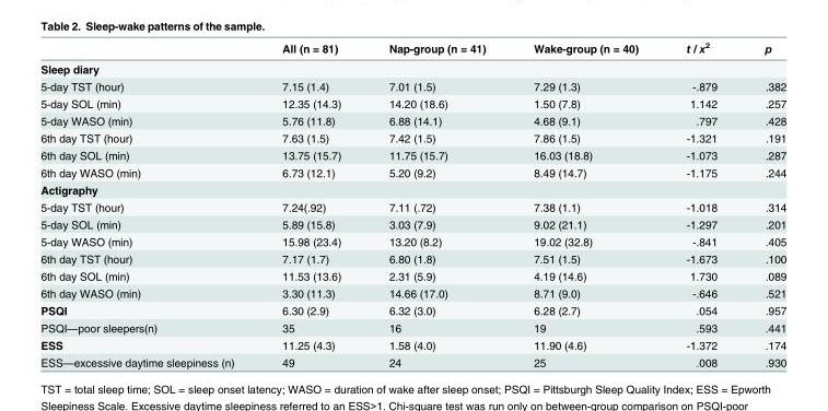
<table><thead><tr><td></td><td>All (n = 81)</td><td>Nap-group (n = 41)</td><td>Wake-group (n = 40)</td><td>t / x<sup>2</sup></td><td>p</td></tr></thead><tbody><tr><td colspan="6">Sleep diary</td></tr><tr><td>5-day TST (hour)</td><td>7.15 (1.4)</td><td>7.01 (1.5)</td><td>7.29 (1.3)</td><td>-.879</td><td>.382</td></tr><tr><td>5-day SOL (min)</td><td>12.35 (14.3)</td><td>14.20 (18.6)</td><td>1.50 (7.8)</td><td>1.142</td><td>.257</td></tr><tr><td>5-day WASO (min)</td><td>5.76 (11.8)</td><td>6.88 (14.1)</td><td>4.68 (9.1)</td><td>.797</td><td>.428</td></tr><tr><td>6th day TST (hour)</td><td>7.63 (1.5)</td><td>7.42 (1.5)</td><td>7.86 (1.5)</td><td>-1.321</td><td>.191</td></tr><tr><td>6th day SOL (min)</td><td>13.75 (15.7)</td><td>11.75 (15.7)</td><td>16.03 (18.8)</td><td>-1.073</td><td>.287</td></tr><tr><td>6th day WASO (min)</td><td>6.73 (12.1)</td><td>5.20 (9.2)</td><td>8.49 (14.7)</td><td>-1.175</td><td>.244</td></tr><tr><td colspan="6">Actigraphy</td></tr><tr><td>5-day TST (hour)</td><td>7.24(.92)</td><td>7.11 (.72)</td><td>7.38 (1.1)</td><td>-1.018</td><td>.314</td></tr><tr><td>5-day SOL (min)</td><td>5.89 (15.8)</td><td>3.03 (7.9)</td><td>9.02 (21.1)</td><td>-1.297</td><td>.201</td></tr><tr><td>5-day WASO (min)</td><td>15.98 (23.4)</td><td>13.20 (8.2)</td><td>19.02 (32.8)</td><td>-.841</td><td>.405</td></tr><tr><td>6th day TST (hour)</td><td>7.17 (1.7)</td><td>6.80 (1.8)</td><td>7.51 (1.5)</td><td>-1.673</td><td>.100</td></tr><tr><td>6th day SOL (min)</td><td>11.53 (13.6)</td><td>2.31 (5.9)</td><td>4.19 (14.6)</td><td>1.730</td><td>.089</td></tr><tr><td>6th day WASO (min)</td><td>3.30 (11.3)</td><td>14.66 (17.0)</td><td>8.71 (9.0)</td><td>-.646</td><td>.521</td></tr><tr><td>PSQI</td><td>6.30 (2.9)</td><td>6.32 (3.0)</td><td>6.28 (2.7)</td><td>.054</td><td>.957</td></tr><tr><td>PSQI—poor sleepers(n)</td><td>35</td><td>16</td><td>19</td><td>.593</td><td>.441</td></tr><tr><td>ESS</td><td>11.25 (4.3)</td><td>1.58 (4.0)</td><td>11.90 (4.6)</td><td>-1.372</td><td>.174</td></tr><tr><td>ESS—excessive daytime sleepiness (n)</td><td>49</td><td>24</td><td>25</td><td>.008</td><td>.930</td></tr></tbody></table>